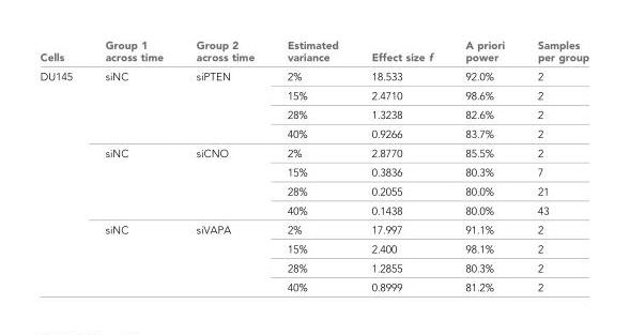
<table><thead><tr><td>Cells</td><td>Group 1 across time</td><td>Group 2 across time</td><td>Estimated variance</td><td>Effect size f</td><td>A priori power</td><td>Samples per group</td></tr></thead><tbody><tr><td rowspan="12">DU145</td><td rowspan="4">siNC</td><td rowspan="4">siPTEN</td><td>2%</td><td>18.533</td><td>92.0%</td><td>2</td></tr><tr><td>15%</td><td>2.4710</td><td>98.6%</td><td>2</td></tr><tr><td>28%</td><td>1.3238</td><td>82.6%</td><td>2</td></tr><tr><td>40%</td><td>0.9266</td><td>83.7%</td><td>2</td></tr><tr><td rowspan="4">siNC</td><td rowspan="4">siCNO</td><td>2%</td><td>2.8770</td><td>85.5%</td><td>2</td></tr><tr><td>15%</td><td>0.3836</td><td>80.3%</td><td>7</td></tr><tr><td>28%</td><td>0.2055</td><td>80.0%</td><td>21</td></tr><tr><td>40%</td><td>0.1438</td><td>80.0%</td><td>43</td></tr><tr><td rowspan="4">siNC</td><td rowspan="4">siVAPA</td><td>2%</td><td>17.997</td><td>91.1%</td><td>2</td></tr><tr><td>15%</td><td>2.400</td><td>98.1%</td><td>2</td></tr><tr><td>28%</td><td>1.2855</td><td>80.3%</td><td>2</td></tr><tr><td>40%</td><td>0.8999</td><td>81.2%</td><td>2</td></tr></tbody></table>